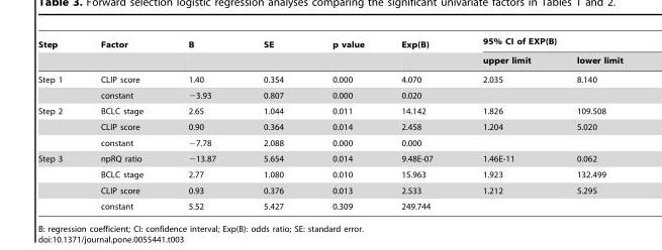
<table><thead><tr><td rowspan="2">Step</td><td rowspan="2">Factor</td><td rowspan="2">B</td><td rowspan="2">SE</td><td rowspan="2">p value</td><td rowspan="2">Exp(B)</td><td colspan="2">95% CI of EXP(B)</td></tr><tr><td>upper limit</td><td>lower limit</td></tr></thead><tbody><tr><td rowspan="2">Step 1</td><td>CLIP score</td><td>1.40</td><td>0.354</td><td>0.000</td><td>4.070</td><td>2.035</td><td>8.140</td></tr><tr><td>constant</td><td>−3.93</td><td>0.807</td><td>0.000</td><td>0.020</td><td></td><td></td></tr><tr><td rowspan="3">Step 2</td><td>BCLC stage</td><td>2.65</td><td>1.044</td><td>0.011</td><td>14.142</td><td>1.826</td><td>109.508</td></tr><tr><td>CLIP score</td><td>0.90</td><td>0.364</td><td>0.014</td><td>2.458</td><td>1.204</td><td>5.020</td></tr><tr><td>constant</td><td>−7.78</td><td>2.088</td><td>0.000</td><td>0.000</td><td></td><td></td></tr><tr><td rowspan="4">Step 3</td><td>npRQ ratio</td><td>−13.87</td><td>5.654</td><td>0.014</td><td>9.48E-07</td><td>1.46E-11</td><td>0.062</td></tr><tr><td>BCLC stage</td><td>2.77</td><td>1.080</td><td>0.010</td><td>15.963</td><td>1.923</td><td>132.499</td></tr><tr><td>CLIP score</td><td>0.93</td><td>0.376</td><td>0.013</td><td>2.533</td><td>1.212</td><td>5.295</td></tr><tr><td>constant</td><td>5.52</td><td>5.427</td><td>0.309</td><td>249.744</td><td></td><td></td></tr></tbody></table>